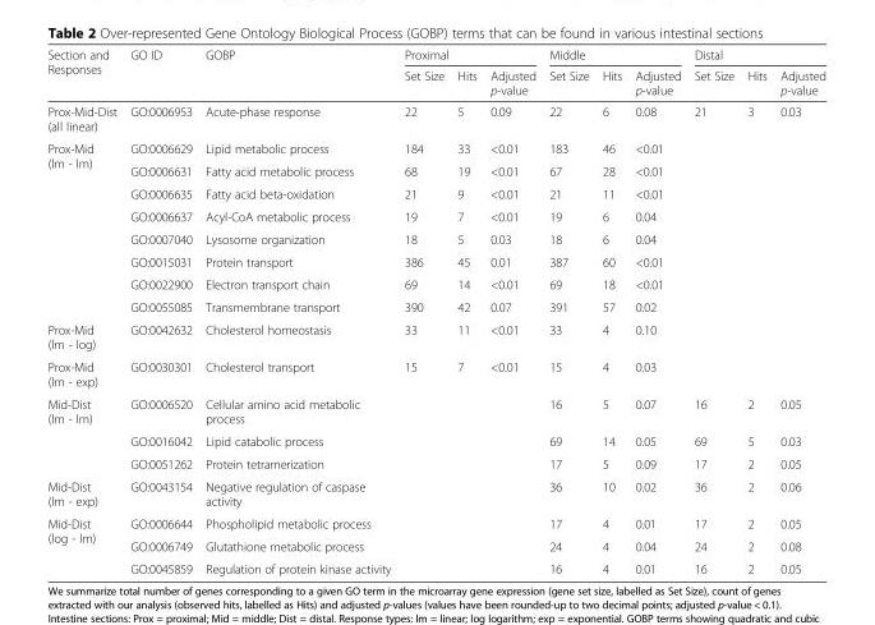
<table><thead><tr><td rowspan="2">Section and Responses</td><td rowspan="2">GO ID</td><td rowspan="2">GOBP</td><td colspan="3">Proximal</td><td colspan="3">Middle</td><td colspan="3">Distal</td></tr><tr><td>Set Size</td><td>Hits</td><td>Adjusted p-value</td><td>Set Size</td><td>Hits</td><td>Adjusted p-value</td><td>Set Size</td><td>Hits</td><td>Adjusted p-value</td></tr></thead><tbody><tr><td>Prox-Mid-Dist (all linear)</td><td>GO:0006953</td><td>Acute-phase response</td><td>22</td><td>5</td><td>0.09</td><td>22</td><td>6</td><td>0.08</td><td>21</td><td>3</td><td>0.03</td></tr><tr><td rowspan="8">Prox-Mid (lm - lm)</td><td>GO:0006629</td><td>Lipid metabolic process</td><td>184</td><td>33</td><td>&lt;0.01</td><td>183</td><td>46</td><td>&lt;0.01</td><td></td><td></td><td></td></tr><tr><td>GO:0006631</td><td>Fatty acid metabolic process</td><td>68</td><td>19</td><td>&lt;0.01</td><td>67</td><td>28</td><td>&lt;0.01</td><td></td><td></td><td></td></tr><tr><td>GO:0006635</td><td>Fatty acid beta-oxidation</td><td>21</td><td>9</td><td>&lt;0.01</td><td>21</td><td>11</td><td>&lt;0.01</td><td></td><td></td><td></td></tr><tr><td>GO:0006637</td><td>Acyl-CoA metabolic process</td><td>19</td><td>7</td><td>&lt;0.01</td><td>19</td><td>6</td><td>0.04</td><td></td><td></td><td></td></tr><tr><td>GO:0007040</td><td>Lysosome organization</td><td>18</td><td>5</td><td>0.03</td><td>18</td><td>6</td><td>0.04</td><td></td><td></td><td></td></tr><tr><td>GO:0015031</td><td>Protein transport</td><td>386</td><td>45</td><td>0.01</td><td>387</td><td>60</td><td>&lt;0.01</td><td></td><td></td><td></td></tr><tr><td>GO:0022900</td><td>Electron transport chain</td><td>69</td><td>14</td><td>&lt;0.01</td><td>69</td><td>18</td><td>&lt;0.01</td><td></td><td></td><td></td></tr><tr><td>GO:0055085</td><td>Transmembrane transport</td><td>390</td><td>42</td><td>0.07</td><td>391</td><td>57</td><td>0.02</td><td></td><td></td><td></td></tr><tr><td>Prox-Mid (lm - log)</td><td>GO:0042632</td><td>Cholesterol homeostasis</td><td>33</td><td>11</td><td>&lt;0.01</td><td>33</td><td>4</td><td>0.10</td><td></td><td></td><td></td></tr><tr><td>Prox-Mid (lm - exp)</td><td>GO:0030301</td><td>Cholesterol transport</td><td>15</td><td>7</td><td>&lt;0.01</td><td>15</td><td>4</td><td>0.03</td><td></td><td></td><td></td></tr><tr><td rowspan="3">Mid-Dist (lm - lm)</td><td>GO:0006520</td><td>Cellular amino acid metabolic process</td><td></td><td></td><td></td><td>16</td><td>5</td><td>0.07</td><td>16</td><td>2</td><td>0.05</td></tr><tr><td>GO:0016042</td><td>Lipid catabolic process</td><td></td><td></td><td></td><td>69</td><td>14</td><td>0.05</td><td>69</td><td>5</td><td>0.03</td></tr><tr><td>GO:0051262</td><td>Protein tetramerization</td><td></td><td></td><td></td><td>17</td><td>5</td><td>0.09</td><td>17</td><td>2</td><td>0.05</td></tr><tr><td>Mid-Dist (lm - exp)</td><td>GO:0043154</td><td>Negative regulation of caspase activity</td><td></td><td></td><td></td><td>36</td><td>10</td><td>0.02</td><td>36</td><td>2</td><td>0.06</td></tr><tr><td rowspan="3">Mid-Dist (log - lm)</td><td>GO:0006644</td><td>Phospholipid metabolic process</td><td></td><td></td><td></td><td>17</td><td>4</td><td>0.01</td><td>17</td><td>2</td><td>0.05</td></tr><tr><td>GO:0006749</td><td>Glutathione metabolic process</td><td></td><td></td><td></td><td>24</td><td>4</td><td>0.04</td><td>24</td><td>2</td><td>0.08</td></tr><tr><td>GO:0045859</td><td>Regulation of protein kinase activity</td><td></td><td></td><td></td><td>16</td><td>4</td><td>0.01</td><td>16</td><td>2</td><td>0.05</td></tr></tbody></table>